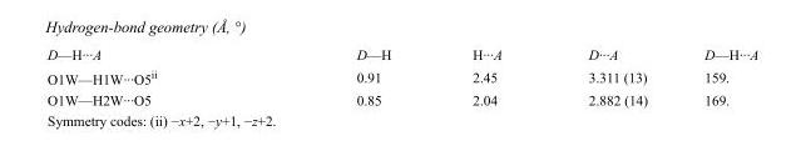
<table><tbody><tr><td>D—H···A</td><td>D—H</td><td>H···A</td><td>D···A</td><td>D—H···A</td></tr><tr><td>O1W—H1W···O5<sup>ii</sup></td><td>0.91</td><td>2.45</td><td>3.311 (13)</td><td>159.</td></tr><tr><td>O1W—H2W···O5</td><td>0.85</td><td>2.04</td><td>2.882 (14)</td><td>169.</td></tr></tbody></table>